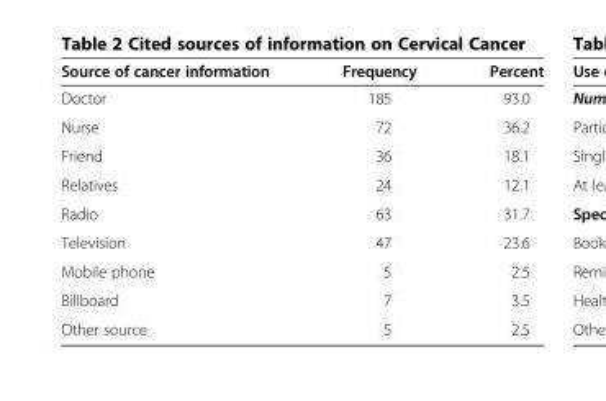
<table><thead><tr><td>Source of cancer information</td><td>Frequency</td><td>Percent</td></tr></thead><tbody><tr><td>Doctor</td><td>185</td><td>93.0</td></tr><tr><td>Nurse</td><td>72</td><td>36.2</td></tr><tr><td>Friend</td><td>36</td><td>18.1</td></tr><tr><td>Relatives</td><td>24</td><td>12.1</td></tr><tr><td>Radio</td><td>63</td><td>31.7</td></tr><tr><td>Television</td><td>47</td><td>23.6</td></tr><tr><td>Mobile phone</td><td>5</td><td>2.5</td></tr><tr><td>Billboard</td><td>7</td><td>3.5</td></tr><tr><td>Other source</td><td>5</td><td>2.5</td></tr></tbody></table>